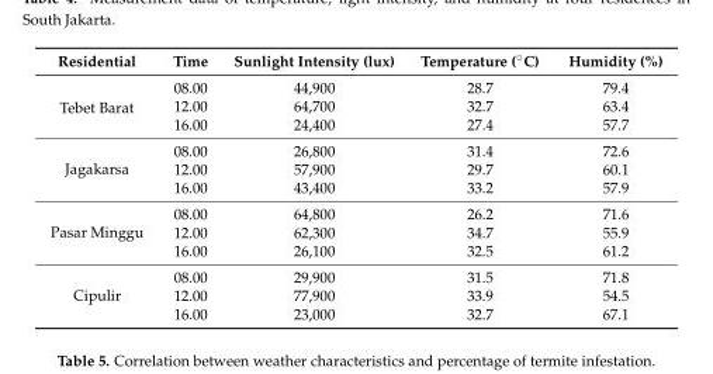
<table><thead><tr><td>Residential</td><td>Time</td><td>Sunlight Intensity (lux)</td><td>Temperature (˝C)</td><td>Humidity (%)</td></tr></thead><tbody><tr><td rowspan="3">Tebet Barat</td><td>08.00</td><td>44,900</td><td>28.7</td><td>79.4</td></tr><tr><td>12.00</td><td>64,700</td><td>32.7</td><td>63.4</td></tr><tr><td>16.00</td><td>24,400</td><td>27.4</td><td>57.7</td></tr><tr><td rowspan="3">Jagakarsa</td><td>08.00</td><td>26,800</td><td>31.4</td><td>72.6</td></tr><tr><td>12.00</td><td>57,900</td><td>29.7</td><td>60.1</td></tr><tr><td>16.00</td><td>43,400</td><td>33.2</td><td>57.9</td></tr><tr><td rowspan="3">Pasar Minggu</td><td>08.00</td><td>64,800</td><td>26.2</td><td>71.6</td></tr><tr><td>12.00</td><td>62,300</td><td>34.7</td><td>55.9</td></tr><tr><td>16.00</td><td>26,100</td><td>32.5</td><td>61.2</td></tr><tr><td rowspan="3">Cipulir</td><td>08.00</td><td>29,900</td><td>31.5</td><td>71.8</td></tr><tr><td>12.00</td><td>77,900</td><td>33.9</td><td>54.5</td></tr><tr><td>16.00</td><td>23,000</td><td>32.7</td><td>67.1</td></tr></tbody></table>